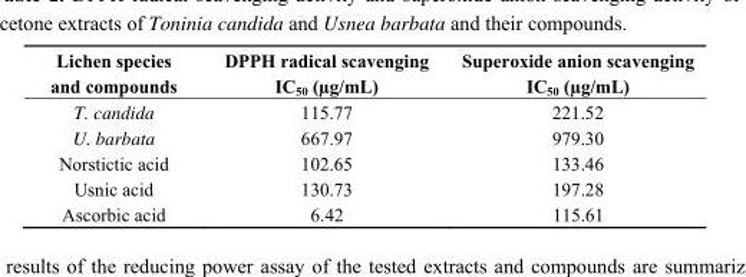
<table><thead><tr><td>Lichen species and compounds</td><td>DPPH radical scavenging IC<sub>50</sub> (µg/mL)</td><td>Superoxide anion scavenging IC<sub>50</sub> (µg/mL)</td></tr></thead><tbody><tr><td>T. candida</td><td>115.77</td><td>221.52</td></tr><tr><td>U. barbata</td><td>667.97</td><td>979.30</td></tr><tr><td>Norstictic acid</td><td>102.65</td><td>133.46</td></tr><tr><td>Usnic acid</td><td>130.73</td><td>197.28</td></tr><tr><td>Ascorbic acid</td><td>6.42</td><td>115.61</td></tr></tbody></table>